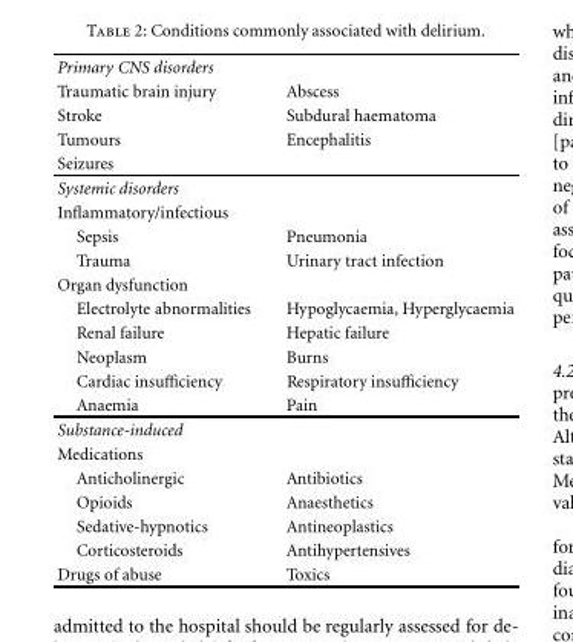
<table><tbody><tr><td colspan="2">Primary CNS disorders</td></tr><tr><td>Traumatic brain injury</td><td>Abscess</td></tr><tr><td>Stroke</td><td>Subdural haematoma</td></tr><tr><td>Tumours</td><td>Encephalitis</td></tr><tr><td colspan="2">Seizures</td></tr><tr><td colspan="2">Systemic disorders</td></tr><tr><td colspan="2">Inflammatory/infectious</td></tr><tr><td>Sepsis</td><td>Pneumonia</td></tr><tr><td>Trauma</td><td>Urinary tract infection</td></tr><tr><td colspan="2">Organ dysfunction</td></tr><tr><td>Electrolyte abnormalities</td><td>Hypoglycaemia, Hyperglycaemia</td></tr><tr><td>Renal failure</td><td>Hepatic failure</td></tr><tr><td>Neoplasm</td><td>Burns</td></tr><tr><td>Cardiac insufficiency</td><td>Respiratory insufficiency</td></tr><tr><td>Anaemia</td><td>Pain</td></tr><tr><td colspan="2">Substance-induced</td></tr><tr><td colspan="2">Medications</td></tr><tr><td>Anticholinergic</td><td>Antibiotics</td></tr><tr><td>Opioids</td><td>Anaesthetics</td></tr><tr><td>Sedative-hypnotics</td><td>Antineoplastics</td></tr><tr><td>Corticosteroids</td><td>Antihypertensives</td></tr><tr><td>Drugs of abuse</td><td>Toxics</td></tr></tbody></table>